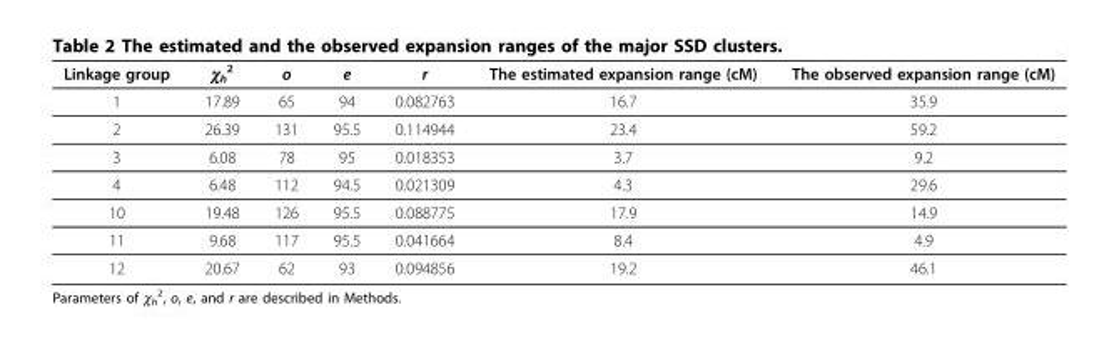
<table><thead><tr><td>Linkage group</td><td>χ<sub>h</sub> <sup>2</sup></td><td>o</td><td>e</td><td>r</td><td>The estimated expansion range (cM)</td><td>The observed expansion range (cM)</td></tr></thead><tbody><tr><td>1</td><td>17.89</td><td>65</td><td>94</td><td>0.082763</td><td>16.7</td><td>35.9</td></tr><tr><td>2</td><td>26.39</td><td>131</td><td>95.5</td><td>0.114944</td><td>23.4</td><td>59.2</td></tr><tr><td>3</td><td>6.08</td><td>78</td><td>95</td><td>0.018353</td><td>3.7</td><td>9.2</td></tr><tr><td>4</td><td>6.48</td><td>112</td><td>94.5</td><td>0.021309</td><td>4.3</td><td>29.6</td></tr><tr><td>10</td><td>19.48</td><td>126</td><td>95.5</td><td>0.088775</td><td>17.9</td><td>14.9</td></tr><tr><td>11</td><td>9.68</td><td>117</td><td>95.5</td><td>0.041664</td><td>8.4</td><td>4.9</td></tr><tr><td>12</td><td>20.67</td><td>62</td><td>93</td><td>0.094856</td><td>19.2</td><td>46.1</td></tr></tbody></table>